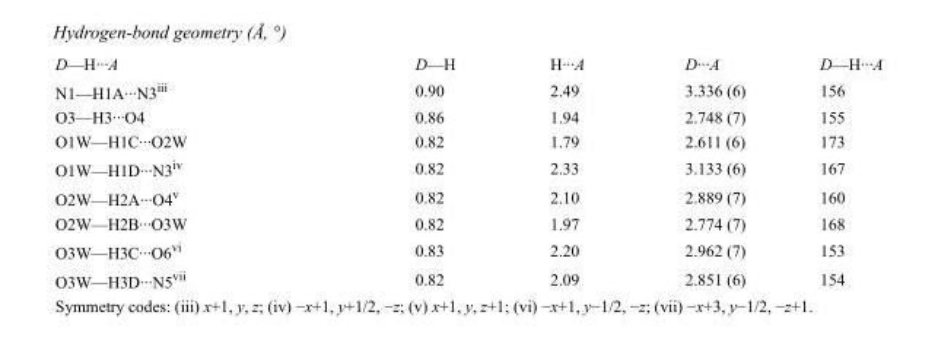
<table><tbody><tr><td>D—H···A</td><td>D—H</td><td>H···A</td><td>D···A</td><td>D—H···A</td></tr><tr><td>N1—H1A···N3<sup>iii</sup></td><td>0.90</td><td>2.49</td><td>3.336 (6)</td><td>156</td></tr><tr><td>O3—H3···O4</td><td>0.86</td><td>1.94</td><td>2.748 (7)</td><td>155</td></tr><tr><td>O1W—H1C···O2W</td><td>0.82</td><td>1.79</td><td>2.611 (6)</td><td>173</td></tr><tr><td>O1W—H1D···N3<sup>iv</sup></td><td>0.82</td><td>2.33</td><td>3.133 (6)</td><td>167</td></tr><tr><td>O2W—H2A···O4<sup>v</sup></td><td>0.82</td><td>2.10</td><td>2.889 (7)</td><td>160</td></tr><tr><td>O2W—H2B···O3W</td><td>0.82</td><td>1.97</td><td>2.774 (7)</td><td>168</td></tr><tr><td>O3W—H3C···O6<sup>vi</sup></td><td>0.83</td><td>2.20</td><td>2.962 (7)</td><td>153</td></tr><tr><td>O3W—H3D···N5<sup>vii</sup></td><td>0.82</td><td>2.09</td><td>2.851 (6)</td><td>154</td></tr></tbody></table>